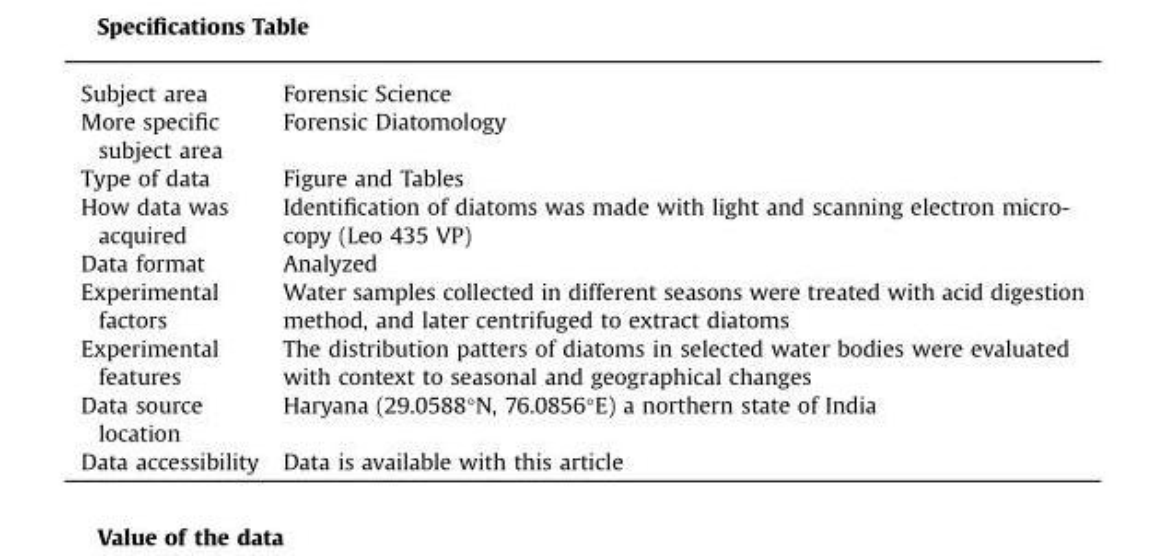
<table><tbody><tr><td>Subject area</td><td>Forensic Science</td></tr><tr><td>More specific subject area</td><td>Forensic Diatomology</td></tr><tr><td>Type of data</td><td>Figure and Tables</td></tr><tr><td>How data was acquired</td><td>Identification of diatoms was made with light and scanning electron micro- copy (Leo 435 VP)</td></tr><tr><td>Data format</td><td>Analyzed</td></tr><tr><td>Experimental factors</td><td>Water samples collected in different seasons were treated with acid digestion method, and later centrifuged to extract diatoms</td></tr><tr><td>Experimental features</td><td>The distribution patters of diatoms in selected water bodies were evaluated with context to seasonal and geographical changes</td></tr><tr><td>Data source location</td><td>Haryana (29.0588°N, 76.0856°E) a northern state of India</td></tr><tr><td>Data accessibility</td><td>Data is available with this article</td></tr></tbody></table>